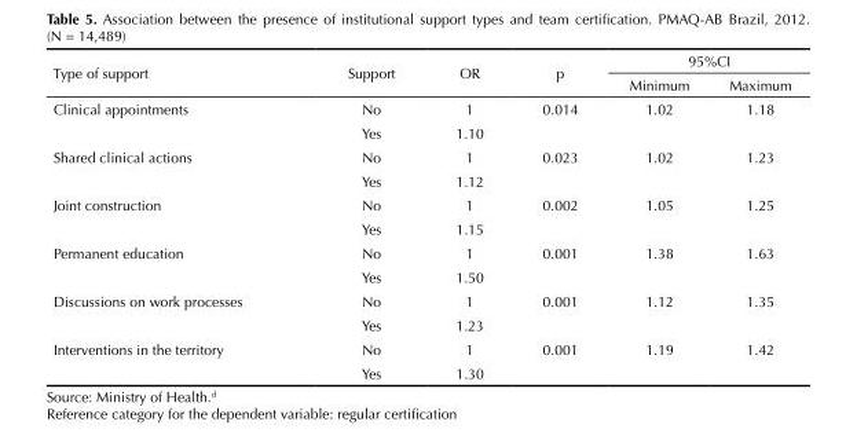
<table><thead><tr><td rowspan="2">Type of support</td><td rowspan="2">Support</td><td rowspan="2">OR</td><td rowspan="2">p</td><td colspan="2">95%CI</td></tr><tr><td>Minimum</td><td>Maximum</td></tr></thead><tbody><tr><td rowspan="2">Clinical appointments</td><td>No</td><td>1</td><td rowspan="2">0.014</td><td rowspan="2">1.02</td><td rowspan="2">1.18</td></tr><tr><td>Yes</td><td>1.10</td></tr><tr><td rowspan="2">Shared clinical actions</td><td>No</td><td>1</td><td rowspan="2">0.023</td><td rowspan="2">1.02</td><td rowspan="2">1.23</td></tr><tr><td>Yes</td><td>1.12</td></tr><tr><td rowspan="2">Joint construction</td><td>No</td><td>1</td><td rowspan="2">0.002</td><td rowspan="2">1.05</td><td rowspan="2">1.25</td></tr><tr><td>Yes</td><td>1.15</td></tr><tr><td rowspan="2">Permanent education</td><td>No</td><td>1</td><td rowspan="2">0.001</td><td rowspan="2">1.38</td><td rowspan="2">1.63</td></tr><tr><td>Yes</td><td>1.50</td></tr><tr><td rowspan="2">Discussions on work processes</td><td>No</td><td>1</td><td rowspan="2">0.001</td><td rowspan="2">1.12</td><td rowspan="2">1.35</td></tr><tr><td>Yes</td><td>1.23</td></tr><tr><td rowspan="2">Interventions in the territory</td><td>No</td><td>1</td><td rowspan="2">0.001</td><td rowspan="2">1.19</td><td rowspan="2">1.42</td></tr><tr><td>Yes</td><td>1.30</td></tr></tbody></table>